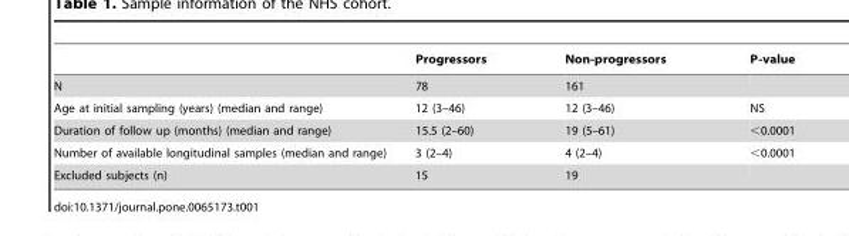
<table><thead><tr><td></td><td>Progressors</td><td>Non-progressors</td><td>P-value</td></tr></thead><tbody><tr><td>N</td><td>78</td><td>161</td><td></td></tr><tr><td>Age at initial sampling (years) (median and range)</td><td>12 (3–46)</td><td>12 (3–46)</td><td>NS</td></tr><tr><td>Duration of follow up (months) (median and range)</td><td>15.5 (2–60)</td><td>19 (5–61)</td><td>&lt;0.0001</td></tr><tr><td>Number of available longitudinal samples (median and range)</td><td>3 (2–4)</td><td>4 (2–4)</td><td>&lt;0.0001</td></tr><tr><td>Excluded subjects (n)</td><td>15</td><td>19</td><td></td></tr></tbody></table>